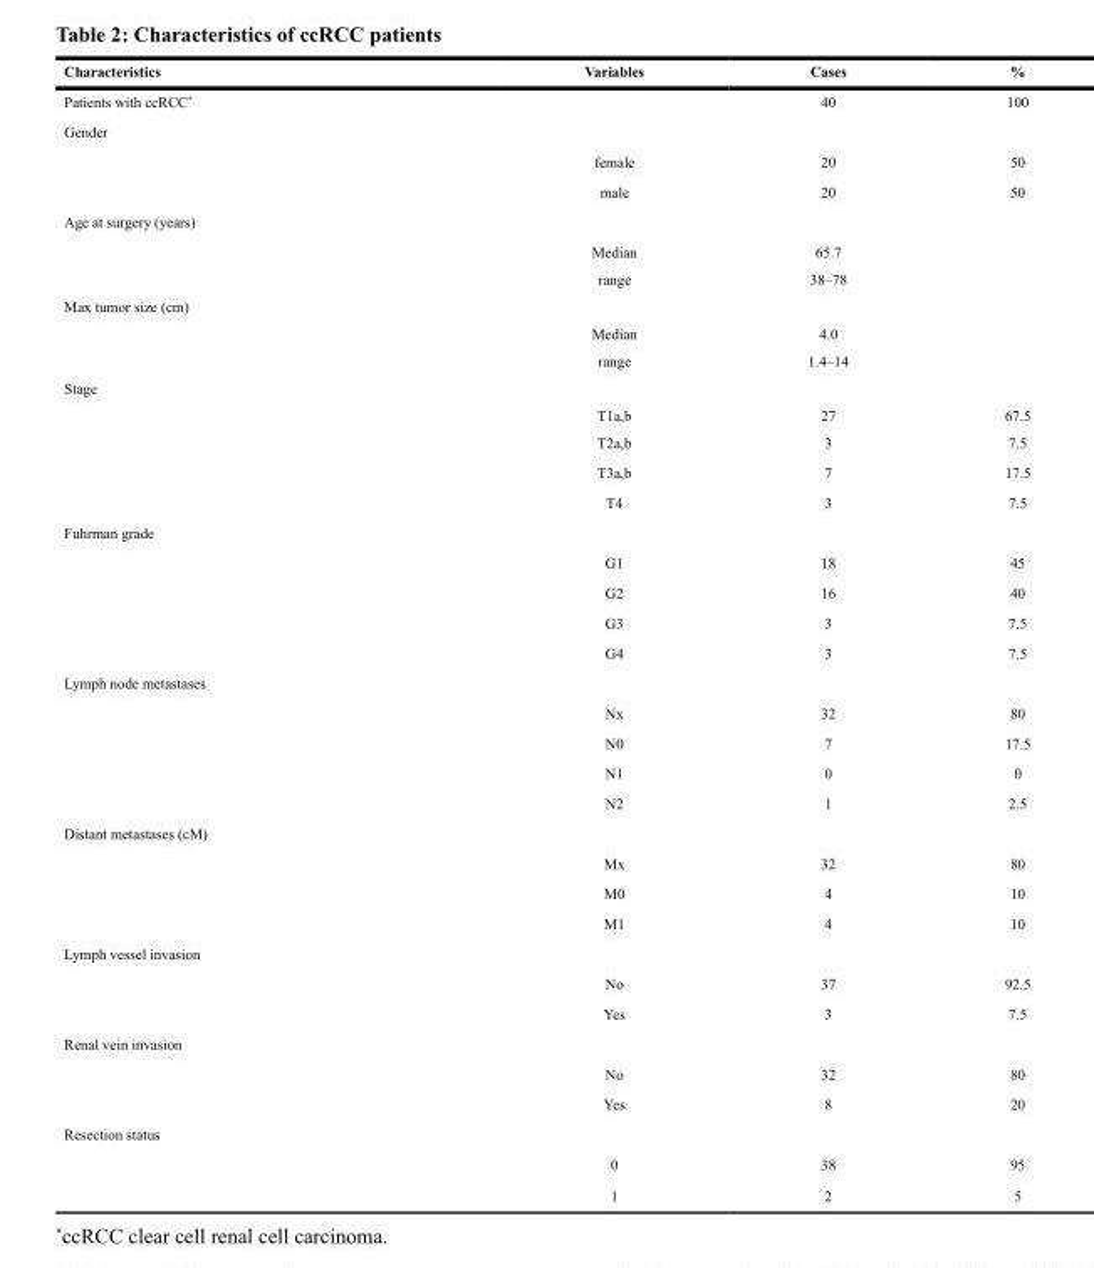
<table><thead><tr><td>Characteristics</td><td>Variables</td><td>Cases</td><td>%</td></tr></thead><tbody><tr><td>Patients with ccRCC*</td><td></td><td>40</td><td>100</td></tr><tr><td colspan="4">Gender</td></tr><tr><td></td><td>female</td><td>20</td><td>50</td></tr><tr><td></td><td>male</td><td>20</td><td>50</td></tr><tr><td colspan="4">Age at surgery (years)</td></tr><tr><td></td><td>Median</td><td>65.7</td><td></td></tr><tr><td></td><td>range</td><td>38–78</td><td></td></tr><tr><td colspan="4">Max tumor size (cm)</td></tr><tr><td></td><td>Median</td><td>4.0</td><td></td></tr><tr><td></td><td>range</td><td>1.4–14</td><td></td></tr><tr><td colspan="4">Stage</td></tr><tr><td></td><td>T1a,b</td><td>27</td><td>67.5</td></tr><tr><td></td><td>T2a,b</td><td>3</td><td>7.5</td></tr><tr><td></td><td>T3a,b</td><td>7</td><td>17.5</td></tr><tr><td></td><td>T4</td><td>3</td><td>7.5</td></tr><tr><td colspan="4">Fuhrman grade</td></tr><tr><td></td><td>G1</td><td>18</td><td>45</td></tr><tr><td></td><td>G2</td><td>16</td><td>40</td></tr><tr><td></td><td>G3</td><td>3</td><td>7.5</td></tr><tr><td></td><td>G4</td><td>3</td><td>7.5</td></tr><tr><td colspan="4">Lymph node metastases</td></tr><tr><td></td><td>Nx</td><td>32</td><td>80</td></tr><tr><td></td><td>N0</td><td>7</td><td>17.5</td></tr><tr><td></td><td>N1</td><td>0</td><td>0</td></tr><tr><td></td><td>N2</td><td>1</td><td>2.5</td></tr><tr><td colspan="4">Distant metastases (cM)</td></tr><tr><td></td><td>Mx</td><td>32</td><td>80</td></tr><tr><td></td><td>M0</td><td>4</td><td>10</td></tr><tr><td></td><td>M1</td><td>4</td><td>10</td></tr><tr><td colspan="4">Lymph vessel invasion</td></tr><tr><td></td><td>No</td><td>37</td><td>92.5</td></tr><tr><td></td><td>Yes</td><td>3</td><td>7.5</td></tr><tr><td colspan="4">Renal vein invasion</td></tr><tr><td></td><td>No</td><td>32</td><td>80</td></tr><tr><td></td><td>Yes</td><td>8</td><td>20</td></tr><tr><td colspan="4">Resection status</td></tr><tr><td></td><td>0</td><td>38</td><td>95</td></tr><tr><td></td><td>1</td><td>2</td><td>5</td></tr></tbody></table>